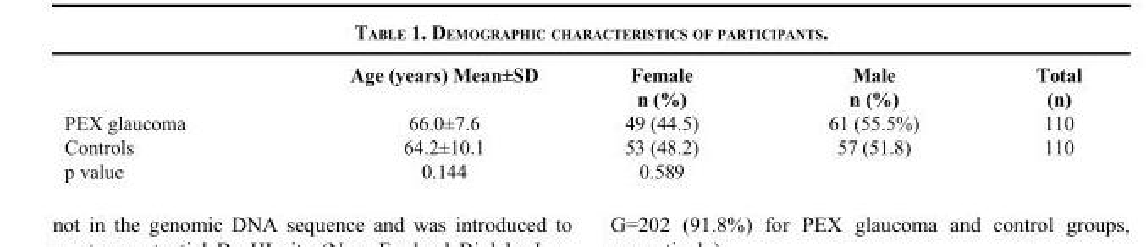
<table><thead><tr><td></td><td>Age (years) Mean±SD</td><td>Female n (%)</td><td>Male n (%)</td><td>Total (n)</td></tr></thead><tbody><tr><td>PEX glaucoma</td><td>66.0±7.6</td><td>49 (44.5)</td><td>61 (55.5%)</td><td>110</td></tr><tr><td>Controls</td><td>64.2±10.1</td><td>53 (48.2)</td><td>57 (51.8)</td><td>110</td></tr><tr><td>p value</td><td>0.144</td><td>0.589</td><td></td><td></td></tr></tbody></table>